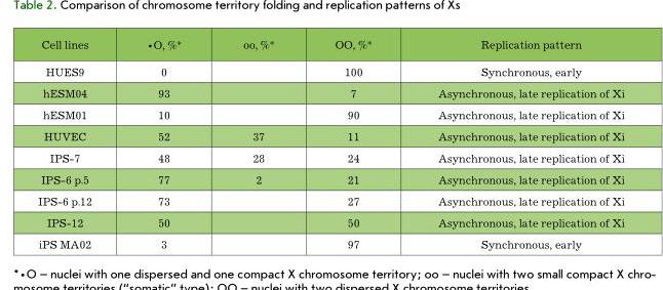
<table><thead><tr><td>cell lines</td><td>●О, %*</td><td>oo, %*</td><td>ОО, %*</td><td>replication pattern</td></tr></thead><tbody><tr><td>HueS9</td><td>0</td><td></td><td>100</td><td>Synchronous, early</td></tr><tr><td>heSM04</td><td>93</td><td></td><td>7</td><td>Asynchronous, late replication of Xi</td></tr><tr><td>heSM01</td><td>10</td><td></td><td>90</td><td>Asynchronous, late replication of Xi</td></tr><tr><td>HuVec</td><td>52</td><td>37</td><td>11</td><td>Asynchronous, late replication of Xi</td></tr><tr><td>IPS-7</td><td>48</td><td>28</td><td>24</td><td>Asynchronous, late replication of Xi</td></tr><tr><td>IPS-6 p.5</td><td>77</td><td>2</td><td>21</td><td>Asynchronous, late replication of Xi</td></tr><tr><td>IPS-6 p.12</td><td>73</td><td></td><td>27</td><td>Asynchronous, late replication of Xi</td></tr><tr><td>IPS-12</td><td>50</td><td></td><td>50</td><td>Asynchronous, late replication of Xi</td></tr><tr><td>iPS MA02</td><td>3</td><td></td><td>97</td><td>Synchronous, early</td></tr></tbody></table>